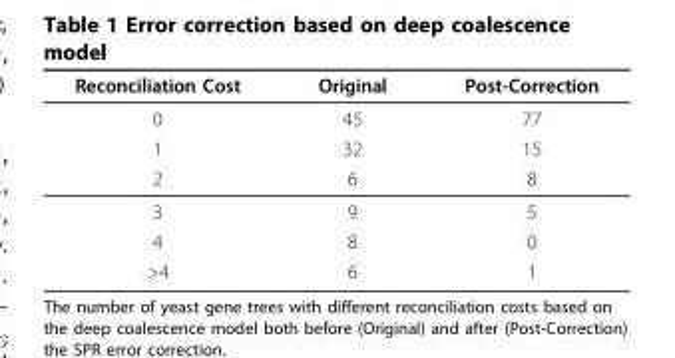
<table><thead><tr><td>Reconciliation Cost</td><td>Original</td><td>Post-Correction</td></tr></thead><tbody><tr><td>0</td><td>45</td><td>77</td></tr><tr><td>1</td><td>32</td><td>15</td></tr><tr><td>2</td><td>6</td><td>8</td></tr><tr><td>3</td><td>9</td><td>5</td></tr><tr><td>4</td><td>8</td><td>0</td></tr><tr><td>&gt;4</td><td>6</td><td>1</td></tr></tbody></table>